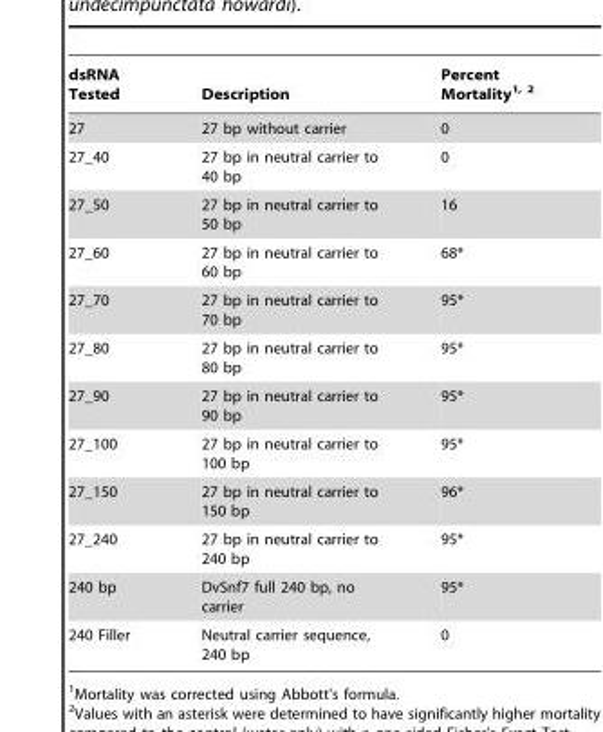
<table><thead><tr><td>dsRNA Tested</td><td>Description</td><td>Percent Mortality<sup>1, 2</sup></td></tr></thead><tbody><tr><td>27</td><td>27 bp without carrier</td><td>0</td></tr><tr><td>27_40</td><td>27 bp in neutral carrier to 40 bp</td><td>0</td></tr><tr><td>27_50</td><td>27 bp in neutral carrier to 50 bp</td><td>16</td></tr><tr><td>27_60</td><td>27 bp in neutral carrier to 60 bp</td><td>68*</td></tr><tr><td>27_70</td><td>27 bp in neutral carrier to 70 bp</td><td>95*</td></tr><tr><td>27_80</td><td>27 bp in neutral carrier to 80 bp</td><td>95*</td></tr><tr><td>27_90</td><td>27 bp in neutral carrier to 90 bp</td><td>95*</td></tr><tr><td>27_100</td><td>27 bp in neutral carrier to 100 bp</td><td>95*</td></tr><tr><td>27_150</td><td>27 bp in neutral carrier to 150 bp</td><td>96*</td></tr><tr><td>27_240</td><td>27 bp in neutral carrier to 240 bp</td><td>95*</td></tr><tr><td>240 bp</td><td>DvSnf7 full 240 bp, no carrier</td><td>95*</td></tr><tr><td>240 Filler</td><td>Neutral carrier sequence, 240 bp</td><td>0</td></tr></tbody></table>